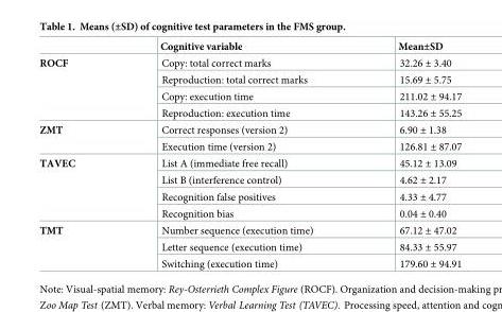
<table><thead><tr><td></td><td>Cognitive variable</td><td>Mean±SD</td></tr></thead><tbody><tr><td rowspan="4">ROCF</td><td>Copy: total correct marks</td><td>32.26 ± 3.40</td></tr><tr><td>Reproduction: total correct marks</td><td>15.69 ± 5.75</td></tr><tr><td>Copy: execution time</td><td>211.02 ± 94.17</td></tr><tr><td>Reproduction: execution time</td><td>143.26 ± 55.25</td></tr><tr><td rowspan="2">ZMT</td><td>Correct responses (version 2)</td><td>6.90 ± 1.38</td></tr><tr><td>Execution time (version 2)</td><td>126.81 ± 87.07</td></tr><tr><td rowspan="4">TAVEC</td><td>List A (immediate free recall)</td><td>45.12 ± 13.09</td></tr><tr><td>List B (interference control)</td><td>4.62 ± 2.17</td></tr><tr><td>Recognition false positives</td><td>4.33 ± 4.77</td></tr><tr><td>Recognition bias</td><td>0.04 ± 0.40</td></tr><tr><td rowspan="3">TMT</td><td>Number sequence (execution time)</td><td>67.12 ± 47.02</td></tr><tr><td>Letter sequence (execution time)</td><td>84.33 ± 55.97</td></tr><tr><td>Switching (execution time)</td><td>179.60 ± 94.91</td></tr></tbody></table>